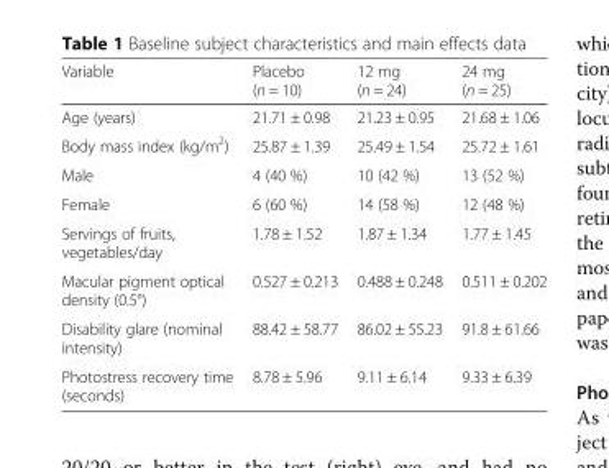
<table><thead><tr><td>Variable</td><td>Placebo (n = 10)</td><td>12 mg (n = 24)</td><td>24 mg (n = 25)</td></tr></thead><tbody><tr><td>Age (years)</td><td>21.71 ± 0.98</td><td>21.23 ± 0.95</td><td>21.68 ± 1.06</td></tr><tr><td>Body mass index (kg/m<sup>2</sup>)</td><td>25.87 ± 1.39</td><td>25.49 ± 1.54</td><td>25.72 ± 1.61</td></tr><tr><td>Male</td><td>4 (40 %)</td><td>10 (42 %)</td><td>13 (52 %)</td></tr><tr><td>Female</td><td>6 (60 %)</td><td>14 (58 %)</td><td>12 (48 %)</td></tr><tr><td>Servings of fruits, vegetables/day</td><td>1.78 ± 1.52</td><td>1.87 ± 1.34</td><td>1.77 ± 1.45</td></tr><tr><td>Macular pigment optical density (0.5°)</td><td>0.527 ± 0.213</td><td>0.488 ± 0.248</td><td>0.511 ± 0.202</td></tr><tr><td>Disability glare (nominal intensity)</td><td>88.42 ± 58.77</td><td>86.02 ± 55.23</td><td>91.8 ± 61.66</td></tr><tr><td>Photostress recovery time (seconds)</td><td>8.78 ± 5.96</td><td>9.11 ± 6.14</td><td>9.33 ± 6.39</td></tr></tbody></table>